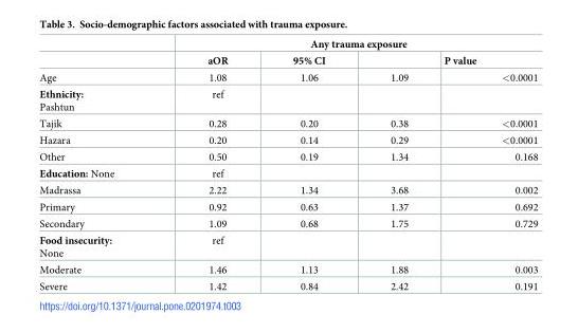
<table><thead><tr><td rowspan="2"></td><td colspan="4">Any trauma exposure</td></tr><tr><td>aOR</td><td>95% CI</td><td></td><td>P value</td></tr></thead><tbody><tr><td>Age</td><td>1.08</td><td>1.06</td><td>1.09</td><td>&lt;0.0001</td></tr><tr><td>Ethnicity: Pashtun</td><td>ref</td><td></td><td></td><td></td></tr><tr><td>Tajik</td><td>0.28</td><td>0.20</td><td>0.38</td><td>&lt;0.0001</td></tr><tr><td>Hazara</td><td>0.20</td><td>0.14</td><td>0.29</td><td>&lt;0.0001</td></tr><tr><td>Other</td><td>0.50</td><td>0.19</td><td>1.34</td><td>0.168</td></tr><tr><td>Education: None</td><td>ref</td><td></td><td></td><td></td></tr><tr><td>Madrassa</td><td>2.22</td><td>1.34</td><td>3.68</td><td>0.002</td></tr><tr><td>Primary</td><td>0.92</td><td>0.63</td><td>1.37</td><td>0.692</td></tr><tr><td>Secondary</td><td>1.09</td><td>0.68</td><td>1.75</td><td>0.729</td></tr><tr><td>Food insecurity: None</td><td>ref</td><td></td><td></td><td></td></tr><tr><td>Moderate</td><td>1.46</td><td>1.13</td><td>1.88</td><td>0.003</td></tr><tr><td>Severe</td><td>1.42</td><td>0.84</td><td>2.42</td><td>0.191</td></tr></tbody></table>